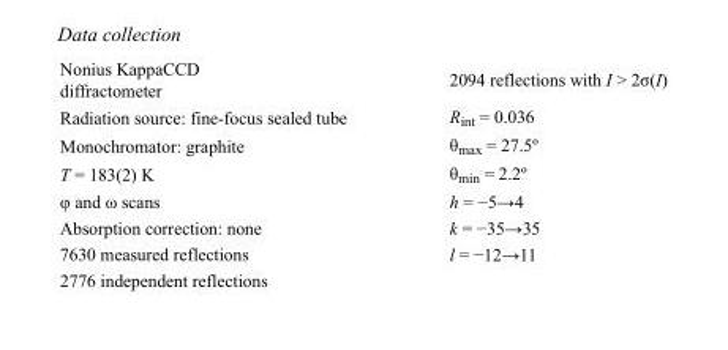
<table><tbody><tr><td>Nonius KappaCCD diffractometer</td><td>2094 reflections with I &gt; 2σ(I)</td></tr><tr><td>Radiation source: fine-focus sealed tube</td><td>R<sub>int</sub> = 0.036</td></tr><tr><td>Monochromator: graphite</td><td>θ<sub>max</sub> = 27.5º</td></tr><tr><td>T = 183(2) K</td><td>θ<sub>min</sub> = 2.2º</td></tr><tr><td>φ and ω scans</td><td>h = −5→4</td></tr><tr><td>Absorption correction: none</td><td>k = −35→35</td></tr><tr><td>7630 measured reflections</td><td>l = −12→11</td></tr><tr><td>2776 independent reflections</td><td></td></tr></tbody></table>